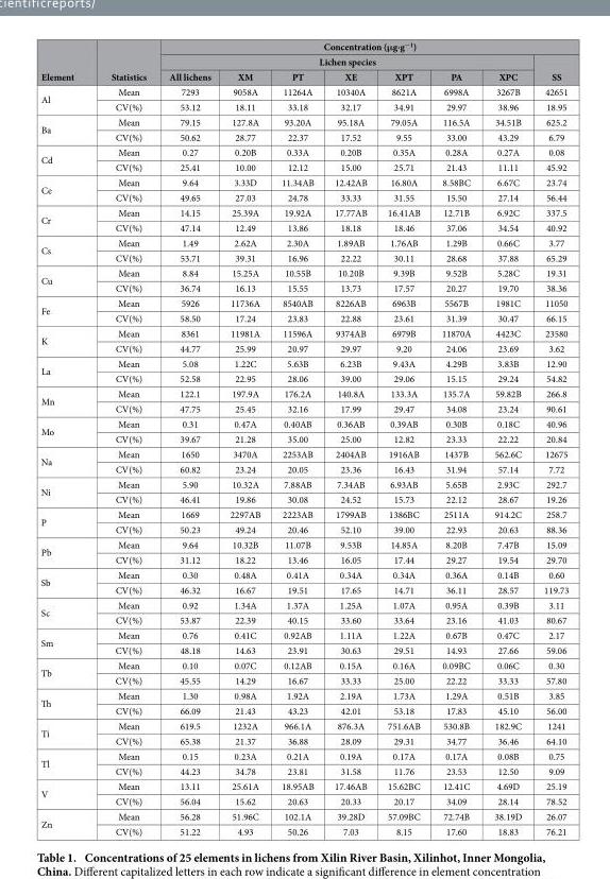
<table><thead><tr><td rowspan="3">Element</td><td rowspan="3">Statistics</td><td colspan="8">Concentration (μg·g<sup>−1</sup>)</td></tr><tr><td colspan="7">Lichen species</td><td rowspan="2">SS</td></tr><tr><td>All lichens</td><td>XM</td><td>PT</td><td>XE</td><td>XPT</td><td>PA</td><td>XPC</td></tr></thead><tbody><tr><td rowspan="2">Al</td><td>Mean</td><td>7293</td><td>9058A</td><td>11264A</td><td>10340A</td><td>8621A</td><td>6998A</td><td>3267B</td><td>42651</td></tr><tr><td>CV(%)</td><td>53.12</td><td>18.11</td><td>33.18</td><td>32.17</td><td>34.91</td><td>29.97</td><td>38.96</td><td>18.95</td></tr><tr><td rowspan="2">Ba</td><td>Mean</td><td>79.15</td><td>127.8A</td><td>93.20A</td><td>95.18A</td><td>79.05A</td><td>116.5A</td><td>34.51B</td><td>625.2</td></tr><tr><td>CV(%)</td><td>50.62</td><td>28.77</td><td>22.37</td><td>17.52</td><td>9.55</td><td>33.00</td><td>43.29</td><td>6.79</td></tr><tr><td rowspan="2">Cd</td><td>Mean</td><td>0.27</td><td>0.20B</td><td>0.33A</td><td>0.20B</td><td>0.35A</td><td>0.28A</td><td>0.27A</td><td>0.08</td></tr><tr><td>CV(%)</td><td>25.41</td><td>10.00</td><td>12.12</td><td>15.00</td><td>25.71</td><td>21.43</td><td>11.11</td><td>45.92</td></tr><tr><td rowspan="2">Ce</td><td>Mean</td><td>9.64</td><td>3.33D</td><td>11.34AB</td><td>12.42AB</td><td>16.80A</td><td>8.58BC</td><td>6.67C</td><td>23.74</td></tr><tr><td>CV(%)</td><td>49.65</td><td>27.03</td><td>24.78</td><td>33.33</td><td>31.55</td><td>15.50</td><td>27.14</td><td>56.44</td></tr><tr><td rowspan="2">Cr</td><td>Mean</td><td>14.15</td><td>25.39A</td><td>19.92A</td><td>17.77AB</td><td>16.41AB</td><td>12.71B</td><td>6.92C</td><td>337.5</td></tr><tr><td>CV(%)</td><td>47.14</td><td>12.49</td><td>13.86</td><td>18.18</td><td>18.46</td><td>37.06</td><td>34.54</td><td>40.92</td></tr><tr><td rowspan="2">Cs</td><td>Mean</td><td>1.49</td><td>2.62A</td><td>2.30A</td><td>1.89AB</td><td>1.76AB</td><td>1.29B</td><td>0.66C</td><td>3.77</td></tr><tr><td>CV(%)</td><td>53.71</td><td>39.31</td><td>16.96</td><td>22.22</td><td>30.11</td><td>28.68</td><td>37.88</td><td>65.29</td></tr><tr><td rowspan="2">Cu</td><td>Mean</td><td>8.84</td><td>15.25A</td><td>10.55B</td><td>10.20B</td><td>9.39B</td><td>9.52B</td><td>5.28C</td><td>19.31</td></tr><tr><td>CV(%)</td><td>36.74</td><td>16.13</td><td>15.55</td><td>13.73</td><td>17.57</td><td>20.27</td><td>19.70</td><td>38.36</td></tr><tr><td rowspan="2">Fe</td><td>Mean</td><td>5926</td><td>11736A</td><td>8540AB</td><td>8226AB</td><td>6963B</td><td>5567B</td><td>1981C</td><td>11050</td></tr><tr><td>CV(%)</td><td>58.50</td><td>17.24</td><td>23.83</td><td>22.88</td><td>23.61</td><td>31.39</td><td>30.47</td><td>66.15</td></tr><tr><td rowspan="2">K</td><td>Mean</td><td>8361</td><td>11981A</td><td>11596A</td><td>9374AB</td><td>6979B</td><td>11870A</td><td>4423C</td><td>23580</td></tr><tr><td>CV(%)</td><td>44.77</td><td>25.99</td><td>20.97</td><td>29.97</td><td>9.20</td><td>24.06</td><td>23.69</td><td>3.62</td></tr><tr><td rowspan="2">La</td><td>Mean</td><td>5.08</td><td>1.22C</td><td>5.63B</td><td>6.23B</td><td>9.43A</td><td>4.29B</td><td>3.83B</td><td>12.90</td></tr><tr><td>CV(%)</td><td>52.58</td><td>22.95</td><td>28.06</td><td>39.00</td><td>29.06</td><td>15.15</td><td>29.24</td><td>54.82</td></tr><tr><td rowspan="2">Mn</td><td>Mean</td><td>122.1</td><td>197.9A</td><td>176.2A</td><td>140.8A</td><td>133.3A</td><td>135.7A</td><td>59.82B</td><td>266.8</td></tr><tr><td>CV(%)</td><td>47.75</td><td>25.45</td><td>32.16</td><td>17.99</td><td>29.47</td><td>34.08</td><td>23.24</td><td>90.61</td></tr><tr><td rowspan="2">Mo</td><td>Mean</td><td>0.31</td><td>0.47A</td><td>0.40AB</td><td>0.36AB</td><td>0.39AB</td><td>0.30B</td><td>0.18C</td><td>40.96</td></tr><tr><td>CV(%)</td><td>39.67</td><td>21.28</td><td>35.00</td><td>25.00</td><td>12.82</td><td>23.33</td><td>22.22</td><td>20.84</td></tr><tr><td rowspan="2">Na</td><td>Mean</td><td>1650</td><td>3470A</td><td>2253AB</td><td>2404AB</td><td>1916AB</td><td>1437B</td><td>562.6C</td><td>12675</td></tr><tr><td>CV(%)</td><td>60.82</td><td>23.24</td><td>20.05</td><td>23.36</td><td>16.43</td><td>31.94</td><td>57.14</td><td>7.72</td></tr><tr><td rowspan="2">Ni</td><td>Mean</td><td>5.90</td><td>10.32A</td><td>7.88AB</td><td>7.34AB</td><td>6.93AB</td><td>5.65B</td><td>2.93C</td><td>292.7</td></tr><tr><td>CV(%)</td><td>46.41</td><td>19.86</td><td>30.08</td><td>24.52</td><td>15.73</td><td>22.12</td><td>28.67</td><td>19.26</td></tr><tr><td rowspan="2">P</td><td>Mean</td><td>1669</td><td>2297AB</td><td>2223AB</td><td>1799AB</td><td>1386BC</td><td>2511A</td><td>914.2C</td><td>258.7</td></tr><tr><td>CV(%)</td><td>50.23</td><td>49.24</td><td>20.46</td><td>52.10</td><td>39.00</td><td>22.93</td><td>20.63</td><td>88.36</td></tr><tr><td rowspan="2">Pb</td><td>Mean</td><td>9.64</td><td>10.32B</td><td>11.07B</td><td>9.53B</td><td>14.85A</td><td>8.20B</td><td>7.47B</td><td>15.09</td></tr><tr><td>CV(%)</td><td>31.12</td><td>18.22</td><td>13.46</td><td>16.05</td><td>17.44</td><td>29.27</td><td>19.54</td><td>29.70</td></tr><tr><td rowspan="2">Sb</td><td>Mean</td><td>0.30</td><td>0.48A</td><td>0.41A</td><td>0.34A</td><td>0.34A</td><td>0.36A</td><td>0.14B</td><td>0.60</td></tr><tr><td>CV(%)</td><td>46.32</td><td>16.67</td><td>19.51</td><td>17.65</td><td>14.71</td><td>36.11</td><td>28.57</td><td>119.73</td></tr><tr><td rowspan="2">Sc</td><td>Mean</td><td>0.92</td><td>1.34A</td><td>1.37A</td><td>1.25A</td><td>1.07A</td><td>0.95A</td><td>0.39B</td><td>3.11</td></tr><tr><td>CV(%)</td><td>53.87</td><td>22.39</td><td>40.15</td><td>33.60</td><td>33.64</td><td>23.16</td><td>41.03</td><td>80.67</td></tr><tr><td rowspan="2">Sm</td><td>Mean</td><td>0.76</td><td>0.41C</td><td>0.92AB</td><td>1.11A</td><td>1.22A</td><td>0.67B</td><td>0.47C</td><td>2.17</td></tr><tr><td>CV(%)</td><td>48.18</td><td>14.63</td><td>23.91</td><td>30.63</td><td>29.51</td><td>14.93</td><td>27.66</td><td>59.06</td></tr><tr><td rowspan="2">Tb</td><td>Mean</td><td>0.10</td><td>0.07C</td><td>0.12AB</td><td>0.15A</td><td>0.16A</td><td>0.09BC</td><td>0.06C</td><td>0.30</td></tr><tr><td>CV(%)</td><td>45.55</td><td>14.29</td><td>16.67</td><td>33.33</td><td>25.00</td><td>22.22</td><td>33.33</td><td>57.80</td></tr><tr><td rowspan="2">Th</td><td>Mean</td><td>1.30</td><td>0.98A</td><td>1.92A</td><td>2.19A</td><td>1.73A</td><td>1.29A</td><td>0.51B</td><td>3.85</td></tr><tr><td>CV(%)</td><td>66.09</td><td>21.43</td><td>43.23</td><td>42.01</td><td>53.18</td><td>17.83</td><td>45.10</td><td>56.00</td></tr><tr><td rowspan="2">Ti</td><td>Mean</td><td>619.5</td><td>1232A</td><td>966.1A</td><td>876.3A</td><td>751.6AB</td><td>530.8B</td><td>182.9C</td><td>1241</td></tr><tr><td>CV(%)</td><td>65.38</td><td>21.37</td><td>36.88</td><td>28.09</td><td>29.31</td><td>34.77</td><td>36.46</td><td>64.10</td></tr><tr><td rowspan="2">Tl</td><td>Mean</td><td>0.15</td><td>0.23A</td><td>0.21A</td><td>0.19A</td><td>0.17A</td><td>0.17A</td><td>0.08B</td><td>0.75</td></tr><tr><td>CV(%)</td><td>44.23</td><td>34.78</td><td>23.81</td><td>31.58</td><td>11.76</td><td>23.53</td><td>12.50</td><td>9.09</td></tr><tr><td rowspan="2">V</td><td>Mean</td><td>13.11</td><td>25.61A</td><td>18.95AB</td><td>17.46AB</td><td>15.62BC</td><td>12.41C</td><td>4.69D</td><td>25.19</td></tr><tr><td>CV(%)</td><td>56.04</td><td>15.62</td><td>20.63</td><td>20.33</td><td>20.17</td><td>34.09</td><td>28.14</td><td>78.52</td></tr><tr><td rowspan="2">Zn</td><td>Mean</td><td>56.28</td><td>51.96C</td><td>102.1A</td><td>39.28D</td><td>57.09BC</td><td>72.74B</td><td>38.19D</td><td>26.07</td></tr><tr><td>CV(%)</td><td>51.22</td><td>4.93</td><td>50.26</td><td>7.03</td><td>8.15</td><td>17.60</td><td>18.83</td><td>76.21</td></tr></tbody></table>